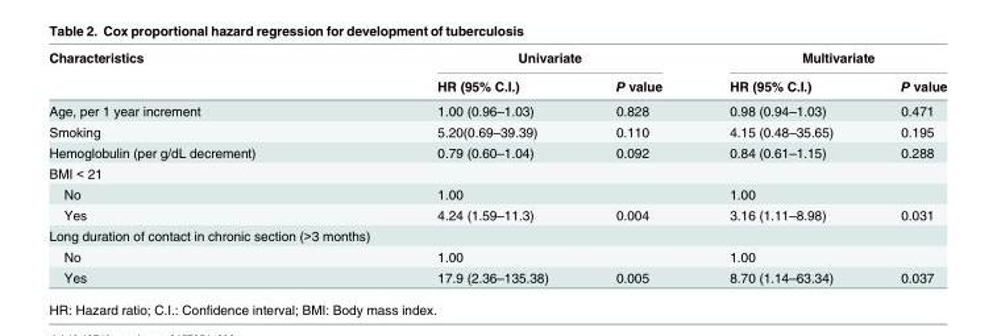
<table><thead><tr><td rowspan="2">Characteristics</td><td colspan="2">Univariate</td><td colspan="2">Multivariate</td></tr><tr><td>HR (95% C.I.)</td><td>P value</td><td>HR (95% C.I.)</td><td>P value</td></tr></thead><tbody><tr><td>Age, per 1 year increment</td><td>1.00 (0.96–1.03)</td><td>0.828</td><td>0.98 (0.94–1.03)</td><td>0.471</td></tr><tr><td>Smoking</td><td>5.20(0.69–39.39)</td><td>0.110</td><td>4.15 (0.48–35.65)</td><td>0.195</td></tr><tr><td>Hemoglobulin (per g/dL decrement)</td><td>0.79 (0.60–1.04)</td><td>0.092</td><td>0.84 (0.61–1.15)</td><td>0.288</td></tr><tr><td colspan="5">BMI &lt; 21</td></tr><tr><td>No</td><td>1.00</td><td></td><td>1.00</td><td></td></tr><tr><td>Yes</td><td>4.24 (1.59–11.3)</td><td>0.004</td><td>3.16 (1.11–8.98)</td><td>0.031</td></tr><tr><td colspan="5">Long duration of contact in chronic section (&gt;3 months)</td></tr><tr><td>No</td><td>1.00</td><td></td><td>1.00</td><td></td></tr><tr><td>Yes</td><td>17.9 (2.36–135.38)</td><td>0.005</td><td>8.70 (1.14–63.34)</td><td>0.037</td></tr></tbody></table>